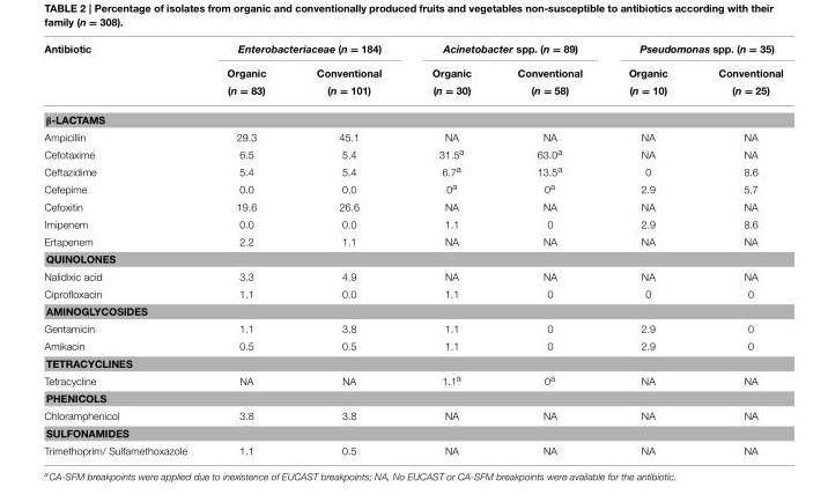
<table><thead><tr><td rowspan="2">Antibiotic</td><td colspan="2">Enterobacteriaceae (n = 184)</td><td colspan="2">Acinetobacter spp. (n = 89)</td><td colspan="2">Pseudomonas spp. (n = 35)</td></tr><tr><td>Organic (n = 83)</td><td>Conventional (n = 101)</td><td>Organic (n = 30)</td><td>Conventional (n = 58)</td><td>Organic (n = 10)</td><td>Conventional (n = 25)</td></tr></thead><tbody><tr><td colspan="7">β-LACTAMS</td></tr><tr><td>Ampicillin</td><td>29.3</td><td>45.1</td><td>NA</td><td>NA</td><td>NA</td><td>NA</td></tr><tr><td>Cefotaxime</td><td>6.5</td><td>5.4</td><td>31.5<sup>a</sup></td><td>63.0<sup>a</sup></td><td>NA</td><td>NA</td></tr><tr><td>Ceftazidime</td><td>5.4</td><td>5.4</td><td>6.7<sup>a</sup></td><td>13.5<sup>a</sup></td><td>0</td><td>8.6</td></tr><tr><td>Cefepime</td><td>0.0</td><td>0.0</td><td>0<sup>a</sup></td><td>0<sup>a</sup></td><td>2.9</td><td>5.7</td></tr><tr><td>Cefoxitin</td><td>19.6</td><td>26.6</td><td>NA</td><td>NA</td><td>NA</td><td>NA</td></tr><tr><td>Imipenem</td><td>0.0</td><td>0.0</td><td>1.1</td><td>0</td><td>2.9</td><td>8.6</td></tr><tr><td>Ertapenem</td><td>2.2</td><td>1.1</td><td>NA</td><td>NA</td><td>NA</td><td>NA</td></tr><tr><td colspan="7">QUINOLONES</td></tr><tr><td>Nalidixic acid</td><td>3.3</td><td>4.9</td><td>NA</td><td>NA</td><td>NA</td><td>NA</td></tr><tr><td>Ciprofloxacin</td><td>1.1</td><td>0.0</td><td>1.1</td><td>0</td><td>0</td><td>0</td></tr><tr><td colspan="7">AMINOGLYCOSIDES</td></tr><tr><td>Gentamicin</td><td>1.1</td><td>3.8</td><td>1.1</td><td>0</td><td>2.9</td><td>0</td></tr><tr><td>Amikacin</td><td>0.5</td><td>0.5</td><td>1.1</td><td>0</td><td>2.9</td><td>0</td></tr><tr><td colspan="7">TETRACYCLINES</td></tr><tr><td>Tetracycline</td><td>NA</td><td>NA</td><td>1.1<sup>a</sup></td><td>0<sup>a</sup></td><td>NA</td><td>NA</td></tr><tr><td colspan="7">PHENICOLS</td></tr><tr><td>Chloramphenicol</td><td>3.8</td><td>3.8</td><td>NA</td><td>NA</td><td>NA</td><td>NA</td></tr><tr><td colspan="7">SULFONAMIDES</td></tr><tr><td>Trimethoprim/ Sulfamethoxazole</td><td>1.1</td><td>0.5</td><td>NA</td><td>NA</td><td>NA</td><td>NA</td></tr></tbody></table>